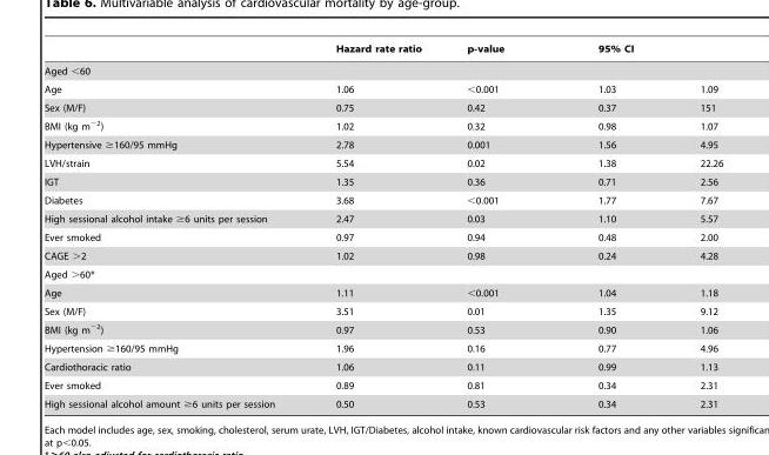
<table><thead><tr><td></td><td>Hazard rate ratio</td><td>p-value</td><td colspan="2">95% CI</td></tr><tr><td colspan="5">Aged &lt;60</td></tr><tr><td>Age</td><td>1.06</td><td>&lt;0.001</td><td>1.03</td><td>1.09</td></tr></thead><tbody><tr><td>Sex (M/F)</td><td>0.75</td><td>0.42</td><td>0.37</td><td>151</td></tr><tr><td>BMI (kg m<sup>−2</sup>)</td><td>1.02</td><td>0.32</td><td>0.98</td><td>1.07</td></tr><tr><td>Hypertensive ≥160/95 mmHg</td><td>2.78</td><td>0.001</td><td>1.56</td><td>4.95</td></tr><tr><td>LVH/strain</td><td>5.54</td><td>0.02</td><td>1.38</td><td>22.26</td></tr><tr><td>IGT</td><td>1.35</td><td>0.36</td><td>0.71</td><td>2.56</td></tr><tr><td>Diabetes</td><td>3.68</td><td>&lt;0.001</td><td>1.77</td><td>7.67</td></tr><tr><td>High sessional alcohol intake ≥6 units per session</td><td>2.47</td><td>0.03</td><td>1.10</td><td>5.57</td></tr><tr><td>Ever smoked</td><td>0.97</td><td>0.94</td><td>0.48</td><td>2.00</td></tr><tr><td>CAGE &gt;2</td><td>1.02</td><td>0.98</td><td>0.24</td><td>4.28</td></tr><tr><td colspan="5">Aged &gt;60*</td></tr><tr><td>Age</td><td>1.11</td><td>&lt;0.001</td><td>1.04</td><td>1.18</td></tr><tr><td>Sex (M/F)</td><td>3.51</td><td>0.01</td><td>1.35</td><td>9.12</td></tr><tr><td>BMI (kg m<sup>−2</sup>)</td><td>0.97</td><td>0.53</td><td>0.90</td><td>1.06</td></tr><tr><td>Hypertension ≥160/95 mmHg</td><td>1.96</td><td>0.16</td><td>0.77</td><td>4.96</td></tr><tr><td>Cardiothoracic ratio</td><td>1.06</td><td>0.11</td><td>0.99</td><td>1.13</td></tr><tr><td>Ever smoked</td><td>0.89</td><td>0.81</td><td>0.34</td><td>2.31</td></tr><tr><td>High sessional alcohol amount ≥6 units per session</td><td>0.50</td><td>0.53</td><td>0.34</td><td>2.31</td></tr></tbody></table>